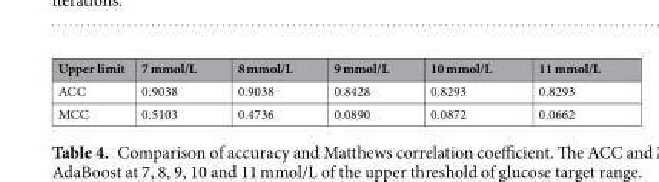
<table><thead><tr><td>Upper limit</td><td>7 mmol/L</td><td>8 mmol/L</td><td>9 mmol/L</td><td>10 mmol/L</td><td>11 mmol/L</td></tr></thead><tbody><tr><td>ACC</td><td>0.9038</td><td>0.9038</td><td>0.8428</td><td>0.8293</td><td>0.8293</td></tr><tr><td>MCC</td><td>0.5103</td><td>0.4736</td><td>0.0890</td><td>0.0872</td><td>0.0662</td></tr></tbody></table>